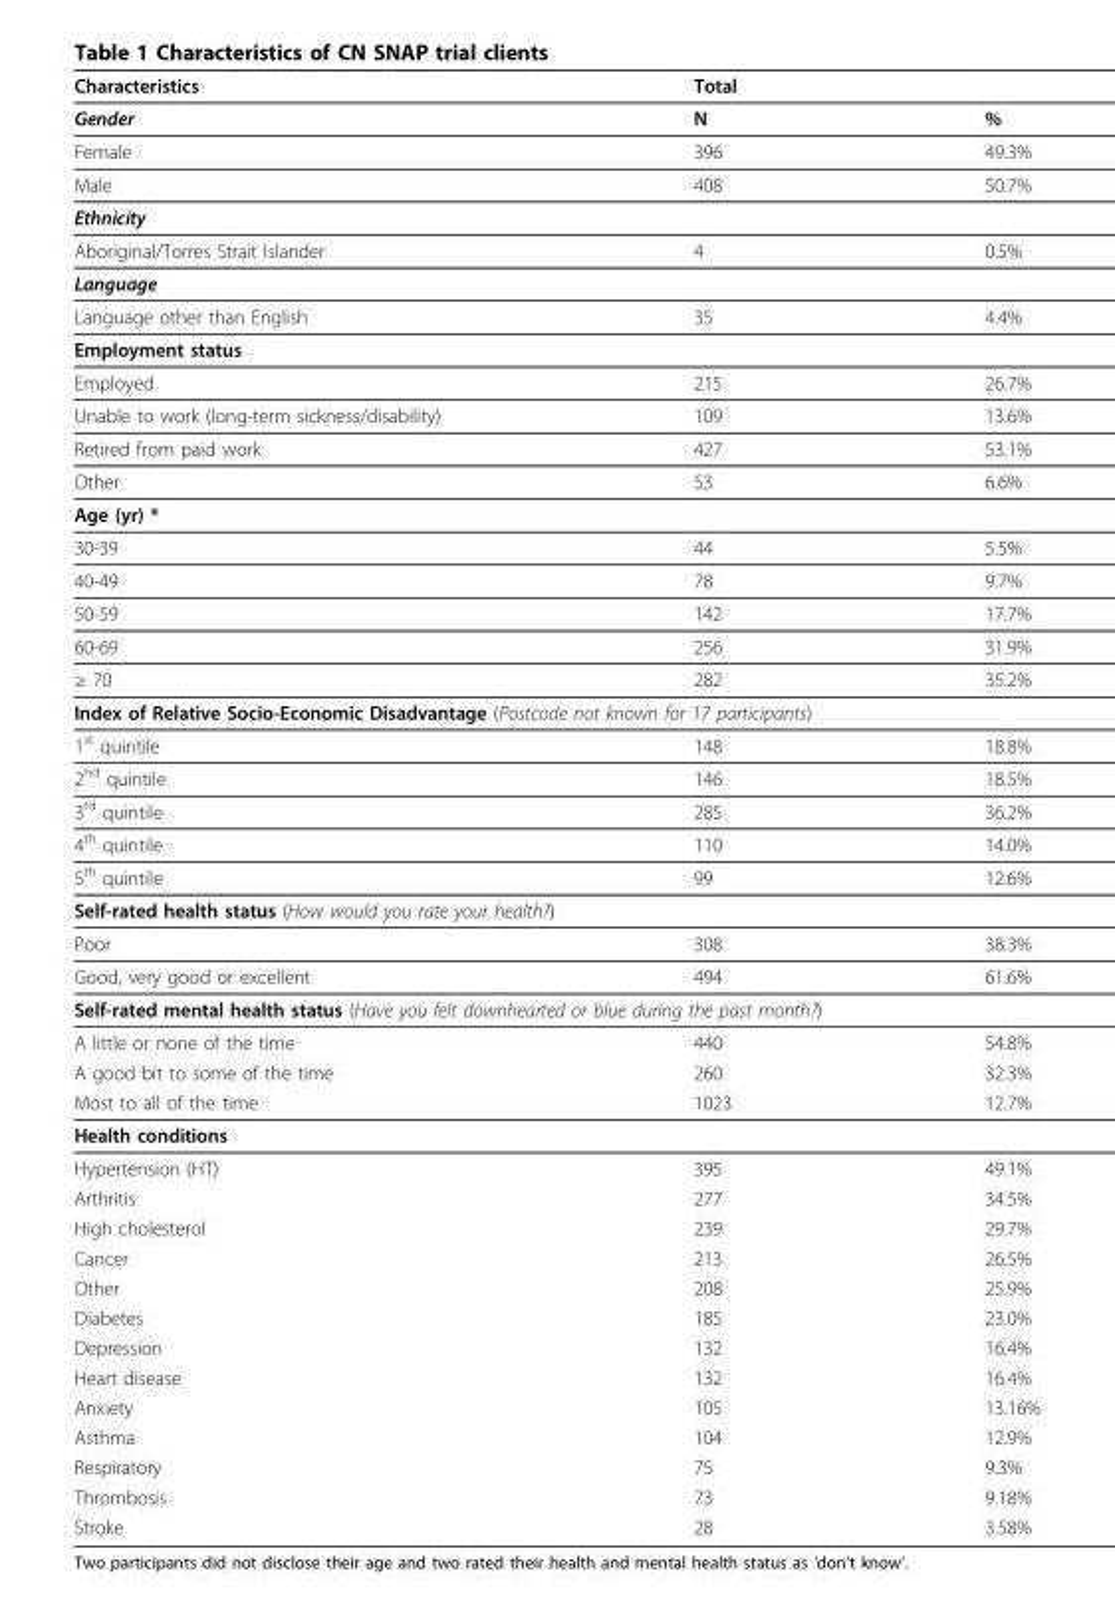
<table><thead><tr><td rowspan="2">Characteristics Gender</td><td colspan="2">Total</td></tr><tr><td>N</td><td>%</td></tr></thead><tbody><tr><td>Female</td><td>396</td><td>49.3%</td></tr><tr><td>Male</td><td>408</td><td>50.7%</td></tr><tr><td colspan="3">Ethnicity</td></tr><tr><td>Aboriginal/Torres Strait Islander</td><td>4</td><td>0.5%</td></tr><tr><td colspan="3">Language</td></tr><tr><td>Language other than English</td><td>35</td><td>4.4%</td></tr><tr><td colspan="3">Employment status</td></tr><tr><td>Employed</td><td>215</td><td>26.7%</td></tr><tr><td>Unable to work (long-term sickness/disability)</td><td>109</td><td>13.6%</td></tr><tr><td>Retired from paid work</td><td>427</td><td>53.1%</td></tr><tr><td>Other</td><td>53</td><td>6.6%</td></tr><tr><td colspan="3">Age (yr) *</td></tr><tr><td>30-39</td><td>44</td><td>5.5%</td></tr><tr><td>40-49</td><td>78</td><td>9.7%</td></tr><tr><td>50-59</td><td>142</td><td>17.7%</td></tr><tr><td>60-69</td><td>256</td><td>31.9%</td></tr><tr><td>≥ 70</td><td>282</td><td>35.2%</td></tr><tr><td colspan="3">Index of Relative Socio-Economic Disadvantage (Postcode not known for 17 participants)</td></tr><tr><td>1<sup>st</sup> quintile</td><td>148</td><td>18.8%</td></tr><tr><td>2<sup>nd</sup> quintile</td><td>146</td><td>18.5%</td></tr><tr><td>3<sup>rd</sup> quintile</td><td>285</td><td>36.2%</td></tr><tr><td>4<sup>th</sup> quintile</td><td>110</td><td>14.0%</td></tr><tr><td>5<sup>th</sup> quintile</td><td>99</td><td>12.6%</td></tr><tr><td colspan="3">Self-rated health status (How would you rate your health?)</td></tr><tr><td>Poor</td><td>308</td><td>38.3%</td></tr><tr><td>Good, very good or excellent</td><td>494</td><td>61.6%</td></tr><tr><td colspan="3">Self-rated mental health status (Have you felt downhearted or blue during the past month?)</td></tr><tr><td>A little or none of the time</td><td>440</td><td>54.8%</td></tr><tr><td>A good bit to some of the time</td><td>260</td><td>32.3%</td></tr><tr><td>Most to all of the time</td><td>1023</td><td>12.7%</td></tr><tr><td colspan="3">Health conditions</td></tr><tr><td>Hypertension (HT)</td><td>395</td><td>49.1%</td></tr><tr><td>Arthritis</td><td>277</td><td>34.5%</td></tr><tr><td>High cholesterol</td><td>239</td><td>29.7%</td></tr><tr><td>Cancer</td><td>213</td><td>26.5%</td></tr><tr><td>Other</td><td>208</td><td>25.9%</td></tr><tr><td>Diabetes</td><td>185</td><td>23.0%</td></tr><tr><td>Depression</td><td>132</td><td>16.4%</td></tr><tr><td>Heart disease</td><td>132</td><td>16.4%</td></tr><tr><td>Anxiety</td><td>105</td><td>13.16%</td></tr><tr><td>Asthma</td><td>104</td><td>12.9%</td></tr><tr><td>Respiratory</td><td>75</td><td>9.3%</td></tr><tr><td>Thrombosis</td><td>73</td><td>9.18%</td></tr><tr><td>Stroke</td><td>28</td><td>3.58%</td></tr></tbody></table>